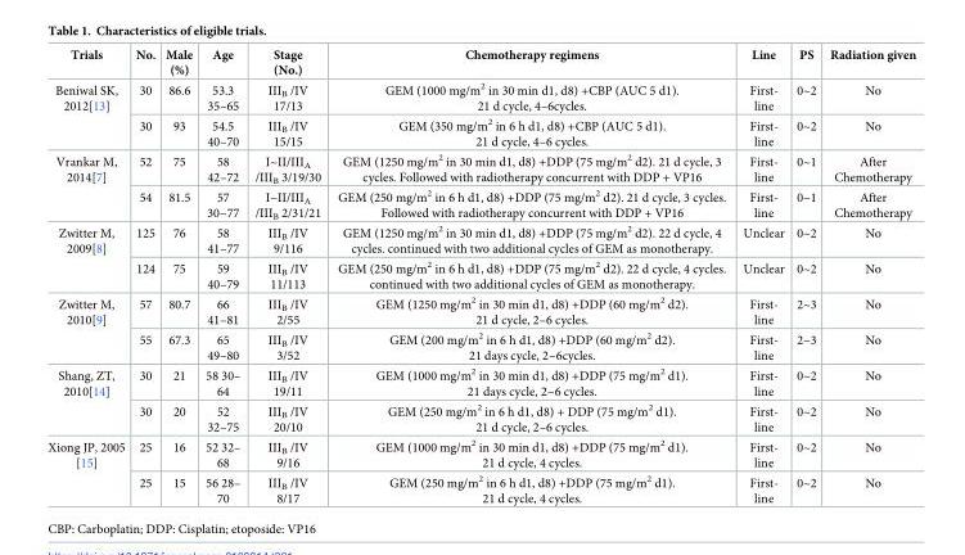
<table><thead><tr><td>Trials</td><td>No.</td><td>Male (%)</td><td>Age</td><td>Stage (No.)</td><td>Chemotherapy regimens</td><td>Line</td><td>PS</td><td>Radiation given</td></tr></thead><tbody><tr><td rowspan="2">Beniwal SK, 2012[13]</td><td>30</td><td>86.6</td><td>53.3 35–65</td><td>III<sub>B</sub> /IV 17/13</td><td>GEM (1000 mg/m<sup>2</sup> in 30 min d1, d8) +CBP (AUC 5 d1). 21 d cycle, 4–6cycles.</td><td>First- line</td><td>0~2</td><td>No</td></tr><tr><td>30</td><td>93</td><td>54.5 40–70</td><td>III<sub>B</sub> /IV 15/15</td><td>GEM (350 mg/m<sup>2</sup> in 6 h d1, d8) +CBP (AUC 5 d1). 21 d cycle, 4–6 cycles.</td><td>First- line</td><td>0~2</td><td>No</td></tr><tr><td rowspan="2">Vrankar M, 2014[7]</td><td>52</td><td>75</td><td>58 42–72</td><td>I~II/III<sub>A</sub> /III<sub>B</sub> 3/19/30</td><td>GEM (1250 mg/m<sup>2</sup> in 30 min d1, d8) +DDP (75 mg/m<sup>2</sup> d2). 21 d cycle, 3 cycles. Followed with radiotherapy concurrent with DDP + VP16</td><td>First- line</td><td>0~1</td><td>After Chemotherapy</td></tr><tr><td>54</td><td>81.5</td><td>57 30~77</td><td>I~II/III<sub>A</sub> /III<sub>B</sub> 2/31/21</td><td>GEM (250 mg/m<sup>2</sup> in 6 h d1, d8) +DDP (75 mg/m<sup>2</sup> d2). 21 d cycle, 3 cycles. Followed with radiotherapy concurrent with DDP + VP16</td><td>First- line</td><td>0~1</td><td>After Chemotherapy</td></tr><tr><td rowspan="2">Zwitter M, 2009[8]</td><td>125</td><td>76</td><td>58 41–77</td><td>III<sub>B</sub> /IV 9/116</td><td>GEM (1250 mg/m<sup>2</sup> in 30 min d1, d8) +DDP (75 mg/m<sup>2</sup> d2). 22 d cycle, 4 cycles. continued with two additional cycles of GEM as monotherapy.</td><td>Unclear</td><td>0~2</td><td>No</td></tr><tr><td>124</td><td>75</td><td>59 40–79</td><td>III<sub>B</sub> /IV 11/113</td><td>GEM (250 mg/m<sup>2</sup> in 6 h d1, d8) +DDP (75 mg/m<sup>2</sup> d2). 22 d cycle, 4 cycles. continued with two additional cycles of GEM as monotherapy.</td><td>Unclear</td><td>0~2</td><td>No</td></tr><tr><td rowspan="2">Zwitter M, 2010[9]</td><td>57</td><td>80.7</td><td>66 41–81</td><td>III<sub>B</sub> /IV 2/55</td><td>GEM (1250 mg/m<sup>2</sup> in 30 min d1, d8) +DDP (60 mg/m<sup>2</sup> d2). 21 d cycle, 2–6 cycles.</td><td>First- line</td><td>2~3</td><td>No</td></tr><tr><td>55</td><td>67.3</td><td>65 49–80</td><td>III<sub>B</sub> /IV 3/52</td><td>GEM (200 mg/m<sup>2</sup> in 6 h d1, d8) +DDP (60 mg/m<sup>2</sup> d2). 21 days cycle, 2~6cycles.</td><td>First- line</td><td>2~3</td><td>No</td></tr><tr><td rowspan="2">Shang, ZT, 2010[14]</td><td>30</td><td>21</td><td>58 30– 64</td><td>III<sub>B</sub> /IV 19/11</td><td>GEM (1000 mg/m<sup>2</sup> in 30 min d1, d8) +DDP (75 mg/m<sup>2</sup> d1). 21 days cycle, 2~6 cycles.</td><td>First- line</td><td>0~2</td><td>No</td></tr><tr><td>30</td><td>20</td><td>52 32–75</td><td>III<sub>B</sub> /IV 20/10</td><td>GEM (250 mg/m<sup>2</sup> in 6 h d1, d8) + DDP (75 mg/m<sup>2</sup> d1). 21 d cycle, 2–6 cycles.</td><td>First- line</td><td>0~2</td><td>No</td></tr><tr><td rowspan="2">Xiong JP, 2005 [15]</td><td>25</td><td>16</td><td>52 32– 68</td><td>III<sub>B</sub> /IV 9/16</td><td>GEM (1000 mg/m<sup>2</sup> in 30 min d1, d8) +DDP (75 mg/m<sup>2</sup> d1). 21 d cycle, 4 cycles.</td><td>First- line</td><td>0~2</td><td>No</td></tr><tr><td>25</td><td>15</td><td>56 28– 70</td><td>III<sub>B</sub> /IV 8/17</td><td>GEM (250 mg/m<sup>2</sup> in 6 h d1, d8) +DDP (75 mg/m<sup>2</sup> d1). 21 d cycle, 4 cycles.</td><td>First- line</td><td>0~2</td><td>No</td></tr></tbody></table>